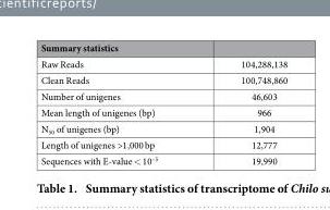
<table><thead><tr><td>Summary statistics</td><td></td></tr></thead><tbody><tr><td>Raw Reads</td><td>104,288,138</td></tr><tr><td>Clean Reads</td><td>100,748,860</td></tr><tr><td>Number of unigenes</td><td>46,603</td></tr><tr><td>Mean length of unigenes (bp)</td><td>966</td></tr><tr><td>N<sub>50</sub> of unigenes (bp)</td><td>1,904</td></tr><tr><td>Length of unigenes &gt;1,000 bp</td><td>12,777</td></tr><tr><td>Sequences with E-value &lt; 10<sup>–5</sup></td><td>19,990</td></tr></tbody></table>